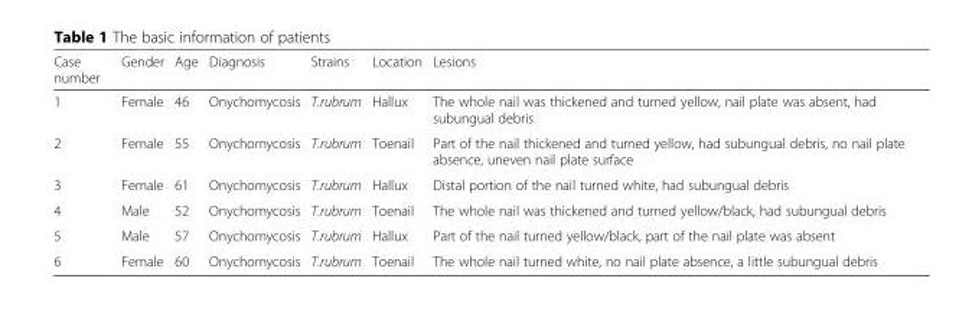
<table><thead><tr><td>Case number</td><td>Gender</td><td>Age</td><td>Diagnosis</td><td>Strains</td><td>Location</td><td>Lesions</td></tr></thead><tbody><tr><td>1</td><td>Female</td><td>46</td><td>Onychomycosis</td><td>T.rubrum</td><td>Hallux</td><td>The whole nail was thickened and turned yellow, nail plate was absent, had subungual debris</td></tr><tr><td>2</td><td>Female</td><td>55</td><td>Onychomycosis</td><td>T.rubrum</td><td>Toenail</td><td>Part of the nail thickened and turned yellow, had subungual debris, no nail plate absence, uneven nail plate surface</td></tr><tr><td>3</td><td>Female</td><td>61</td><td>Onychomycosis</td><td>T.rubrum</td><td>Hallux</td><td>Distal portion of the nail turned white, had subungual debris</td></tr><tr><td>4</td><td>Male</td><td>52</td><td>Onychomycosis</td><td>T.rubrum</td><td>Toenail</td><td>The whole nail was thickened and turned yellow/black, had subungual debris</td></tr><tr><td>5</td><td>Male</td><td>57</td><td>Onychomycosis</td><td>T.rubrum</td><td>Hallux</td><td>Part of the nail turned yellow/black, part of the nail plate was absent</td></tr><tr><td>6</td><td>Female</td><td>60</td><td>Onychomycosis</td><td>T.rubrum</td><td>Toenail</td><td>The whole nail turned white, no nail plate absence, a little subungual debris</td></tr></tbody></table>